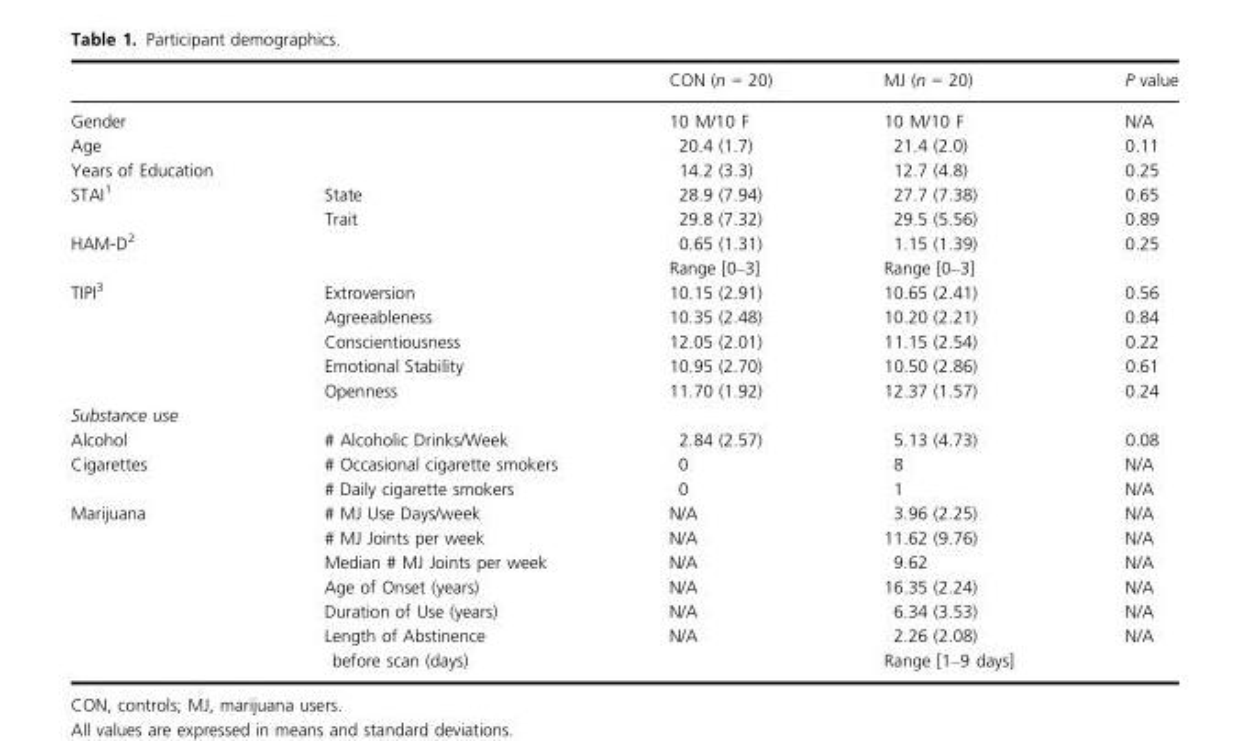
<table><thead><tr><td></td><td></td><td>CON (n = 20)</td><td>MJ (n = 20)</td><td>P value</td></tr></thead><tbody><tr><td>Gender</td><td></td><td>10 M/10 F</td><td>10 M/10 F</td><td>N/A</td></tr><tr><td>Age</td><td></td><td>20.4 (1.7)</td><td>21.4 (2.0)</td><td>0.11</td></tr><tr><td>Years of Education</td><td></td><td>14.2 (3.3)</td><td>12.7 (4.8)</td><td>0.25</td></tr><tr><td rowspan="2">STAI1</td><td>State</td><td>28.9 (7.94)</td><td>27.7 (7.38)</td><td>0.65</td></tr><tr><td>Trait</td><td>29.8 (7.32)</td><td>29.5 (5.56)</td><td>0.89</td></tr><tr><td rowspan="2">HAM-D2</td><td></td><td>0.65 (1.31)</td><td>1.15 (1.39)</td><td>0.25</td></tr><tr><td></td><td>Range [0–3]</td><td>Range [0–3]</td><td></td></tr><tr><td rowspan="5">TIPI3</td><td>Extroversion</td><td>10.15 (2.91)</td><td>10.65 (2.41)</td><td>0.56</td></tr><tr><td>Agreeableness</td><td>10.35 (2.48)</td><td>10.20 (2.21)</td><td>0.84</td></tr><tr><td>Conscientiousness</td><td>12.05 (2.01)</td><td>11.15 (2.54)</td><td>0.22</td></tr><tr><td>Emotional Stability</td><td>10.95 (2.70)</td><td>10.50 (2.86)</td><td>0.61</td></tr><tr><td>Openness</td><td>11.70 (1.92)</td><td>12.37 (1.57)</td><td>0.24</td></tr><tr><td colspan="5">Substance use</td></tr><tr><td>Alcohol</td><td># Alcoholic Drinks/Week</td><td>2.84 (2.57)</td><td>5.13 (4.73)</td><td>0.08</td></tr><tr><td rowspan="2">Cigarettes</td><td># Occasional cigarette smokers</td><td>0</td><td>8</td><td>N/A</td></tr><tr><td># Daily cigarette smokers</td><td>0</td><td>1</td><td>N/A</td></tr><tr><td rowspan="6">Marijuana</td><td># MJ Use Days/week</td><td>N/A</td><td>3.96 (2.25)</td><td>N/A</td></tr><tr><td># MJ Joints per week</td><td>N/A</td><td>11.62 (9.76)</td><td>N/A</td></tr><tr><td>Median # MJ Joints per week</td><td>N/A</td><td>9.62</td><td>N/A</td></tr><tr><td>Age of Onset (years)</td><td>N/A</td><td>16.35 (2.24)</td><td>N/A</td></tr><tr><td>Duration of Use (years)</td><td>N/A</td><td>6.34 (3.53)</td><td>N/A</td></tr><tr><td>Length of Abstinence before scan (days)</td><td>N/A</td><td>2.26 (2.08) Range [1–9 days]</td><td>N/A</td></tr></tbody></table>